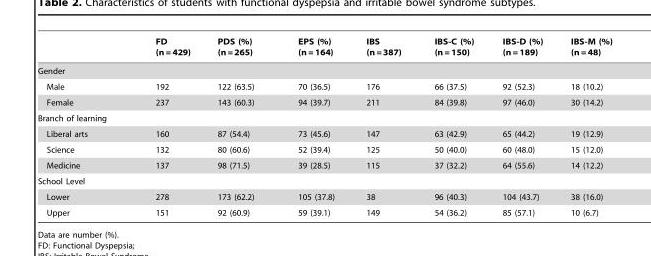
<table><thead><tr><td></td><td>FD (n = 429)</td><td>PDS (%) (n = 265)</td><td>EPS (%) (n = 164)</td><td>IBS (n = 387)</td><td>IBS-C (%) (n = 150)</td><td>IBS-D (%) (n = 189)</td><td>IBS-M (%) (n = 48)</td></tr></thead><tbody><tr><td colspan="8">Gender</td></tr><tr><td>Male</td><td>192</td><td>122 (63.5)</td><td>70 (36.5)</td><td>176</td><td>66 (37.5)</td><td>92 (52.3)</td><td>18 (10.2)</td></tr><tr><td>Female</td><td>237</td><td>143 (60.3)</td><td>94 (39.7)</td><td>211</td><td>84 (39.8)</td><td>97 (46.0)</td><td>30 (14.2)</td></tr><tr><td colspan="8">Branch of learning</td></tr><tr><td>Liberal arts</td><td>160</td><td>87 (54.4)</td><td>73 (45.6)</td><td>147</td><td>63 (42.9)</td><td>65 (44.2)</td><td>19 (12.9)</td></tr><tr><td>Science</td><td>132</td><td>80 (60.6)</td><td>52 (39.4)</td><td>125</td><td>50 (40.0)</td><td>60 (48.0)</td><td>15 (12.0)</td></tr><tr><td>Medicine</td><td>137</td><td>98 (71.5)</td><td>39 (28.5)</td><td>115</td><td>37 (32.2)</td><td>64 (55.6)</td><td>14 (12.2)</td></tr><tr><td colspan="8">School Level</td></tr><tr><td>Lower</td><td>278</td><td>173 (62.2)</td><td>105 (37.8)</td><td>38</td><td>96 (40.3)</td><td>104 (43.7)</td><td>38 (16.0)</td></tr><tr><td>Upper</td><td>151</td><td>92 (60.9)</td><td>59 (39.1)</td><td>149</td><td>54 (36.2)</td><td>85 (57.1)</td><td>10 (6.7)</td></tr></tbody></table>